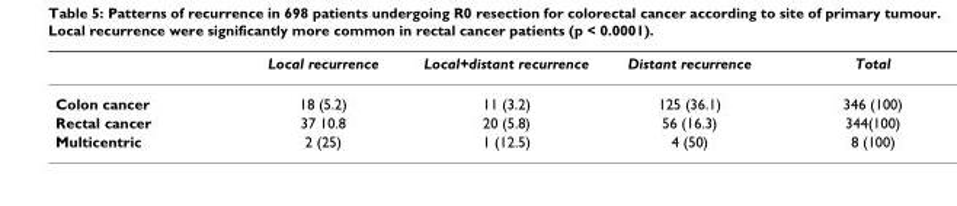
<table><thead><tr><td></td><td>Local recurrence</td><td>Local+distant recurrence</td><td>Distant recurrence</td><td>Total</td></tr></thead><tbody><tr><td>Colon cancer</td><td>18 (5.2)</td><td>11 (3.2)</td><td>125 (36.1)</td><td>346 (100)</td></tr><tr><td>Rectal cancer</td><td>37 10.8</td><td>20 (5.8)</td><td>56 (16.3)</td><td>344(100)</td></tr><tr><td>Multicentric</td><td>2 (25)</td><td>1 (12.5)</td><td>4 (50)</td><td>8 (100)</td></tr></tbody></table>